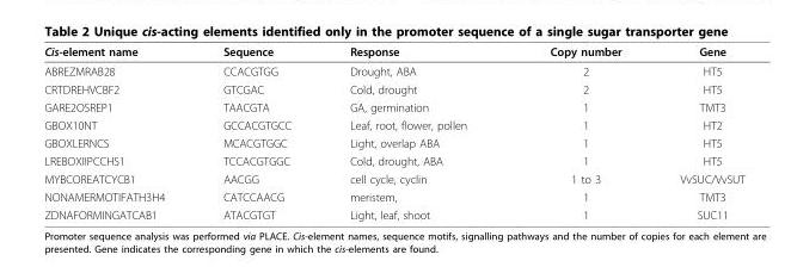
<table><thead><tr><td>Cis-element name</td><td>Sequence</td><td>Response</td><td>Copy number</td><td>Gene</td></tr></thead><tbody><tr><td>ABREZMRAB28</td><td>CCACGTGG</td><td>Drought, ABA</td><td>2</td><td>HT5</td></tr><tr><td>CRTDREHVCBF2</td><td>GTCGAC</td><td>Cold, drought</td><td>2</td><td>HT5</td></tr><tr><td>GARE2OSREP1</td><td>TAACGTA</td><td>GA, germination</td><td>1</td><td>TMT3</td></tr><tr><td>GBOX10NT</td><td>GCCACGTGCC</td><td>Leaf, root, flower, pollen</td><td>1</td><td>HT2</td></tr><tr><td>GBOXLERNCS</td><td>MCACGTGGC</td><td>Light, overlap ABA</td><td>1</td><td>HT5</td></tr><tr><td>LREBOXIIPCCHS1</td><td>TCCACGTGGC</td><td>Cold, drought, ABA</td><td>1</td><td>HT5</td></tr><tr><td>MYBCOREATCYCB1</td><td>AACGG</td><td>cell cycle, cyclin</td><td>1 to 3</td><td>VvSUC/VvSUT</td></tr><tr><td>NONAMERMOTIFATH3H4</td><td>CATCCAACG</td><td>meristem,</td><td>1</td><td>TMT3</td></tr><tr><td>ZDNAFORMINGATCAB1</td><td>ATACGTGT</td><td>Light, leaf, shoot</td><td>1</td><td>SUC11</td></tr></tbody></table>